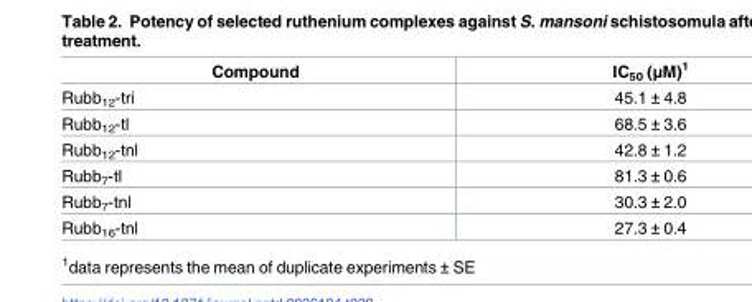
<table><thead><tr><td>Compound</td><td>IC<sub>50</sub> (μM)<sup>1</sup></td></tr></thead><tbody><tr><td>Rubb<sub>12</sub>-tri</td><td>45.1 ± 4.8</td></tr><tr><td>Rubb<sub>12</sub>-tl</td><td>68.5 ± 3.6</td></tr><tr><td>Rubb<sub>12</sub>-tnl</td><td>42.8 ± 1.2</td></tr><tr><td>Rubb<sub>7</sub>-tl</td><td>81.3 ± 0.6</td></tr><tr><td>Rubb<sub>7</sub>-tnl</td><td>30.3 ± 2.0</td></tr><tr><td>Rubb<sub>16</sub>-tnl</td><td>27.3 ± 0.4</td></tr></tbody></table>